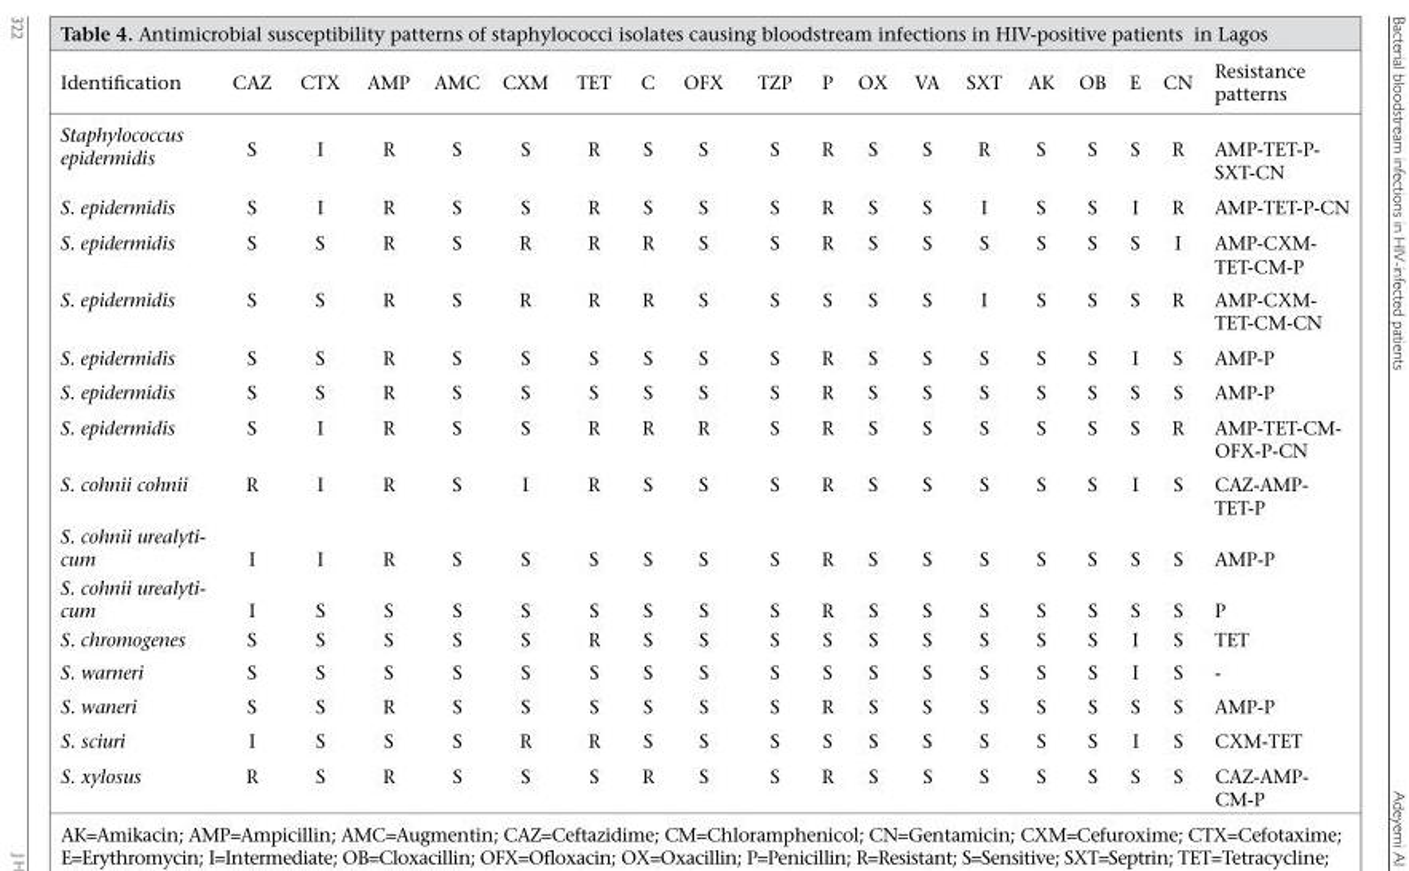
<table><thead><tr><td>Identification</td><td>CAZ</td><td>CTX</td><td>AMP</td><td>AMC</td><td>CXM</td><td>TET</td><td>C</td><td>OFX</td><td>TZP</td><td>P</td><td>OX</td><td>VA</td><td>SXT</td><td>AK</td><td>OB</td><td>E</td><td>CN</td><td>Resistance patterns</td></tr></thead><tbody><tr><td>Staphylococcus epidermidis</td><td>S</td><td>I</td><td>R</td><td>S</td><td>S</td><td>R</td><td>S</td><td>S</td><td>S</td><td>R</td><td>S</td><td>S</td><td>R</td><td>S</td><td>S</td><td>S</td><td>R</td><td>AMP-TET-P- SXT-CN</td></tr><tr><td>S. epidermidis</td><td>S</td><td>I</td><td>R</td><td>S</td><td>S</td><td>R</td><td>S</td><td>S</td><td>S</td><td>R</td><td>S</td><td>S</td><td>I</td><td>S</td><td>S</td><td>I</td><td>R</td><td>AMP-TET-P-CN</td></tr><tr><td>S. epidermidis</td><td>S</td><td>S</td><td>R</td><td>S</td><td>R</td><td>R</td><td>R</td><td>S</td><td>S</td><td>R</td><td>S</td><td>S</td><td>S</td><td>S</td><td>S</td><td>S</td><td>I</td><td>AMP-CXM- TET-CM-P</td></tr><tr><td>S. epidermidis</td><td>S</td><td>S</td><td>R</td><td>S</td><td>R</td><td>R</td><td>R</td><td>S</td><td>S</td><td>S</td><td>S</td><td>S</td><td>I</td><td>S</td><td>S</td><td>S</td><td>R</td><td>AMP-CXM- TET-CM-CN</td></tr><tr><td>S. epidermidis</td><td>S</td><td>S</td><td>R</td><td>S</td><td>S</td><td>S</td><td>S</td><td>S</td><td>S</td><td>R</td><td>S</td><td>S</td><td>S</td><td>S</td><td>S</td><td>I</td><td>S</td><td>AMP-P</td></tr><tr><td>S. epidermidis</td><td>S</td><td>S</td><td>R</td><td>S</td><td>S</td><td>S</td><td>S</td><td>S</td><td>S</td><td>R</td><td>S</td><td>S</td><td>S</td><td>S</td><td>S</td><td>S</td><td>S</td><td>AMP-P</td></tr><tr><td>S. epidermidis</td><td>S</td><td>I</td><td>R</td><td>S</td><td>S</td><td>R</td><td>R</td><td>R</td><td>S</td><td>R</td><td>S</td><td>S</td><td>S</td><td>S</td><td>S</td><td>S</td><td>R</td><td>AMP-TET-CM- OFX-P-CN</td></tr><tr><td>S. cohnii cohnii</td><td>R</td><td>I</td><td>R</td><td>S</td><td>I</td><td>R</td><td>S</td><td>S</td><td>S</td><td>R</td><td>S</td><td>S</td><td>S</td><td>S</td><td>S</td><td>I</td><td>S</td><td>CAZ-AMP- TET-P</td></tr><tr><td>S. cohnii urealyti- cum</td><td>I</td><td>I</td><td>R</td><td>S</td><td>S</td><td>S</td><td>S</td><td>S</td><td>S</td><td>R</td><td>S</td><td>S</td><td>S</td><td>S</td><td>S</td><td>S</td><td>S</td><td>AMP-P</td></tr><tr><td>S. cohnii urealyti- cum</td><td>I</td><td>S</td><td>S</td><td>S</td><td>S</td><td>S</td><td>S</td><td>S</td><td>S</td><td>R</td><td>S</td><td>S</td><td>S</td><td>S</td><td>S</td><td>S</td><td>S</td><td>P</td></tr><tr><td>S. chromogenes</td><td>S</td><td>S</td><td>S</td><td>S</td><td>S</td><td>R</td><td>S</td><td>S</td><td>S</td><td>S</td><td>S</td><td>S</td><td>S</td><td>S</td><td>S</td><td>I</td><td>S</td><td>TET</td></tr><tr><td>S. warneri</td><td>S</td><td>S</td><td>S</td><td>S</td><td>S</td><td>S</td><td>S</td><td>S</td><td>S</td><td>S</td><td>S</td><td>S</td><td>S</td><td>S</td><td>S</td><td>I</td><td>S</td><td>-</td></tr><tr><td>S. waneri</td><td>S</td><td>S</td><td>R</td><td>S</td><td>S</td><td>S</td><td>S</td><td>S</td><td>S</td><td>R</td><td>S</td><td>S</td><td>S</td><td>S</td><td>S</td><td>S</td><td>S</td><td>AMP-P</td></tr><tr><td>S. sciuri</td><td>I</td><td>S</td><td>S</td><td>S</td><td>R</td><td>R</td><td>S</td><td>S</td><td>S</td><td>S</td><td>S</td><td>S</td><td>S</td><td>S</td><td>S</td><td>I</td><td>S</td><td>CXM-TET</td></tr><tr><td>S. xylosus</td><td>R</td><td>S</td><td>R</td><td>S</td><td>S</td><td>S</td><td>R</td><td>S</td><td>S</td><td>R</td><td>S</td><td>S</td><td>S</td><td>S</td><td>S</td><td>S</td><td>S</td><td>CAZ-AMP- CM-P</td></tr></tbody></table>